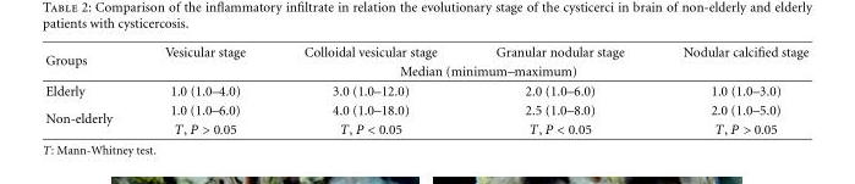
<table><thead><tr><td rowspan="2">Groups</td><td>Vesicular stage</td><td>Colloidal vesicular stage</td><td>Granular nodular stage</td><td>Nodular calcified stage</td></tr><tr><td colspan="4">Median (minimum–maximum)</td></tr></thead><tbody><tr><td>Elderly</td><td>1.0 (1.0–4.0)</td><td>3.0 (1.0–12.0)</td><td>2.0 (1.0–6.0)</td><td>1.0 (1.0–3.0)</td></tr><tr><td rowspan="2">Non-elderly</td><td>1.0 (1.0–6.0)</td><td>4.0 (1.0–18.0)</td><td>2.5 (1.0–8.0)</td><td>2.0 (1.0–5.0)</td></tr><tr><td>T, P &gt; 0.05</td><td>T, P &lt; 0.05</td><td>T, P &lt; 0.05</td><td>T, P &gt; 0.05</td></tr></tbody></table>